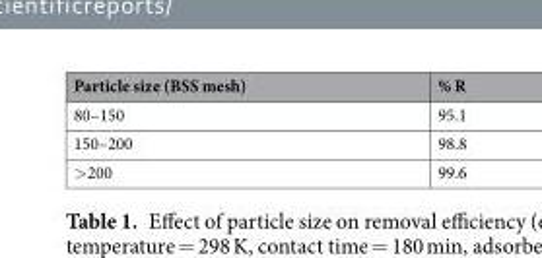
<table><thead><tr><td>Particle size (BSS mesh)</td><td>% R</td></tr></thead><tbody><tr><td>80–150</td><td>95.1</td></tr><tr><td>150–200</td><td>98.8</td></tr><tr><td>&gt;200</td><td>99.6</td></tr></tbody></table>